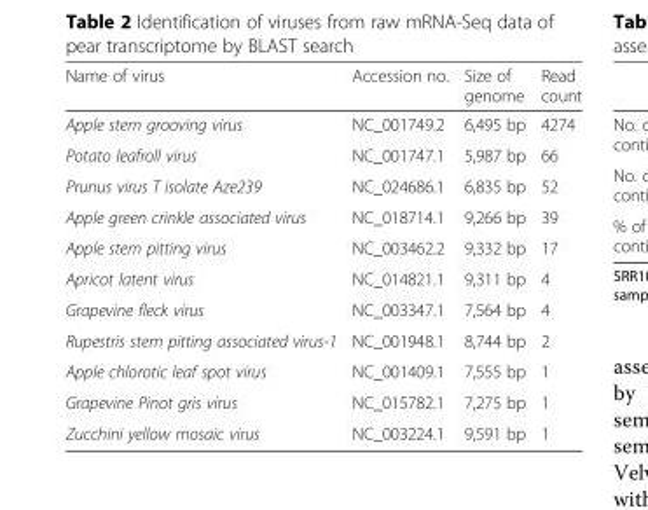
<table><thead><tr><td>Name of virus</td><td>Accession no.</td><td>Size of genome</td><td>Read count</td></tr></thead><tbody><tr><td>Apple stem grooving virus</td><td>NC_001749.2</td><td>6,495 bp</td><td>4274</td></tr><tr><td>Potato leafroll virus</td><td>NC_001747.1</td><td>5,987 bp</td><td>66</td></tr><tr><td>Prunus virus T isolate Aze239</td><td>NC_024686.1</td><td>6,835 bp</td><td>52</td></tr><tr><td>Apple green crinkle associated virus</td><td>NC_018714.1</td><td>9,266 bp</td><td>39</td></tr><tr><td>Apple stem pitting virus</td><td>NC_003462.2</td><td>9,332 bp</td><td>17</td></tr><tr><td>Apricot latent virus</td><td>NC_014821.1</td><td>9,311 bp</td><td>4</td></tr><tr><td>Grapevine fleck virus</td><td>NC_003347.1</td><td>7,564 bp</td><td>4</td></tr><tr><td>Rupestris stem pitting associated virus-1</td><td>NC_001948.1</td><td>8,744 bp</td><td>2</td></tr><tr><td>Apple chlorotic leaf spot virus</td><td>NC_001409.1</td><td>7,555 bp</td><td>1</td></tr><tr><td>Grapevine Pinot gris virus</td><td>NC_015782.1</td><td>7,275 bp</td><td>1</td></tr><tr><td>Zucchini yellow mosaic virus</td><td>NC_003224.1</td><td>9,591 bp</td><td>1</td></tr></tbody></table>